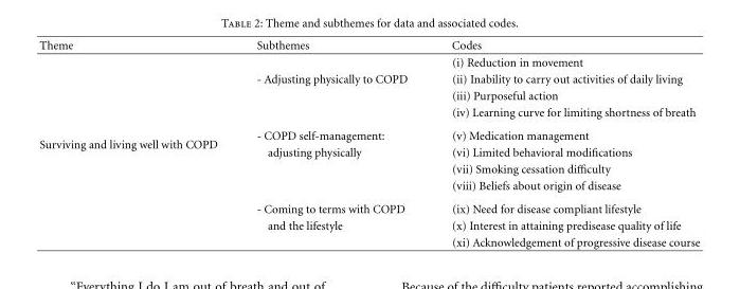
<table><thead><tr><td>Theme</td><td>Subthemes</td><td>Codes</td></tr></thead><tbody><tr><td rowspan="11">Surviving and living well with COPD</td><td></td><td>(i) Reduction in movement</td></tr><tr><td>- Adjusting physically to COPD</td><td>(ii) Inability to carry out activities of daily living</td></tr><tr><td></td><td>(iii) Purposeful action</td></tr><tr><td></td><td>(iv) Learning curve for limiting shortness of breath</td></tr><tr><td>- COPD self-management:</td><td>(v) Medication management</td></tr><tr><td>adjusting physically</td><td>(vi) Limited behavioral modifications</td></tr><tr><td></td><td>(vii) Smoking cessation difficulty</td></tr><tr><td></td><td>(viii) Beliefs about origin of disease</td></tr><tr><td>- Coming to terms with COPD</td><td>(ix) Need for disease compliant lifestyle</td></tr><tr><td>and the lifestyle</td><td>(x) Interest in attaining predisease quality of life</td></tr><tr><td></td><td>(xi) Acknowledgement of progressive disease course</td></tr></tbody></table>